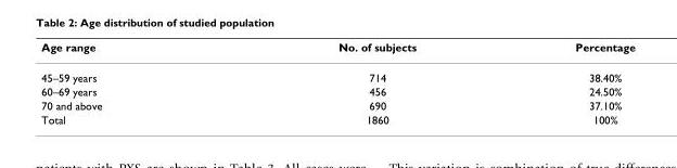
<table><thead><tr><td>Age range</td><td>No. of subjects</td><td>Percentage</td></tr></thead><tbody><tr><td>45–59 years</td><td>714</td><td>38.40%</td></tr><tr><td>60–69 years</td><td>456</td><td>24.50%</td></tr><tr><td>70 and above</td><td>690</td><td>37.10%</td></tr><tr><td>Total</td><td>1860</td><td>100%</td></tr></tbody></table>